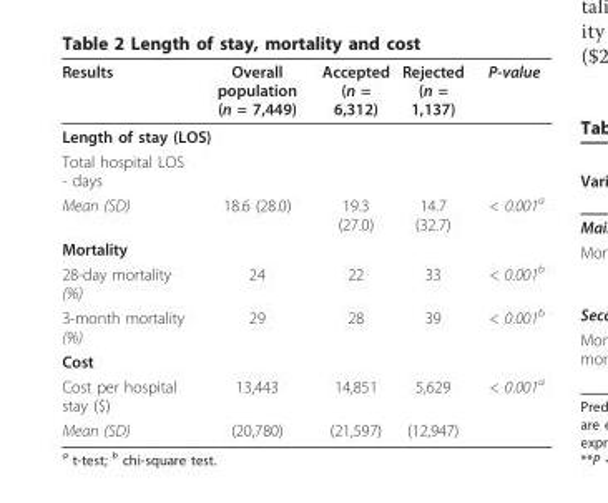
<table><thead><tr><td>Results</td><td>Overall population (n = 7,449)</td><td>Accepted (n = 6,312)</td><td>Rejected (n = 1,137)</td><td>P-value</td></tr></thead><tbody><tr><td colspan="5">Length of stay (LOS)</td></tr><tr><td colspan="5">Total hospital LOS - days</td></tr><tr><td>Mean (SD)</td><td>18.6 (28.0)</td><td>19.3 (27.0)</td><td>14.7 (32.7)</td><td>&lt; 0.001<sup>a</sup></td></tr><tr><td colspan="5">Mortality</td></tr><tr><td>28-day mortality (%)</td><td>24</td><td>22</td><td>33</td><td>&lt; 0.001<sup>b</sup></td></tr><tr><td>3-month mortality (%)</td><td>29</td><td>28</td><td>39</td><td>&lt; 0.001<sup>b</sup></td></tr><tr><td colspan="5">Cost</td></tr><tr><td>Cost per hospital stay ($)</td><td>13,443</td><td>14,851</td><td>5,629</td><td>&lt; 0.001<sup>a</sup></td></tr><tr><td>Mean (SD)</td><td>(20,780)</td><td>(21,597)</td><td>(12,947)</td><td></td></tr></tbody></table>